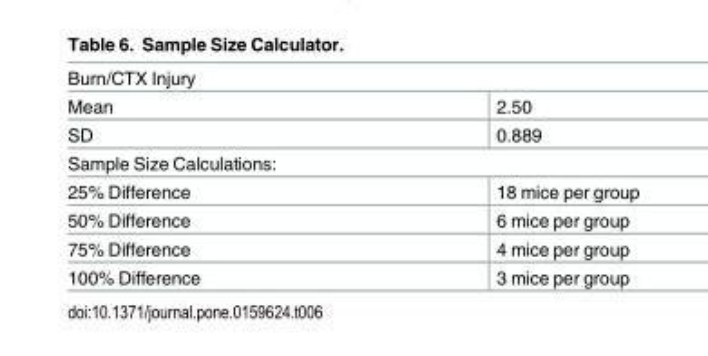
<table><tbody><tr><td colspan="2">Burn/CTX Injury</td></tr><tr><td>Mean</td><td>2.50</td></tr><tr><td>SD</td><td>0.889</td></tr><tr><td colspan="2">Sample Size Calculations:</td></tr><tr><td>25% Difference</td><td>18 mice per group</td></tr><tr><td>50% Difference</td><td>6 mice per group</td></tr><tr><td>75% Difference</td><td>4 mice per group</td></tr><tr><td>100% Difference</td><td>3 mice per group</td></tr></tbody></table>